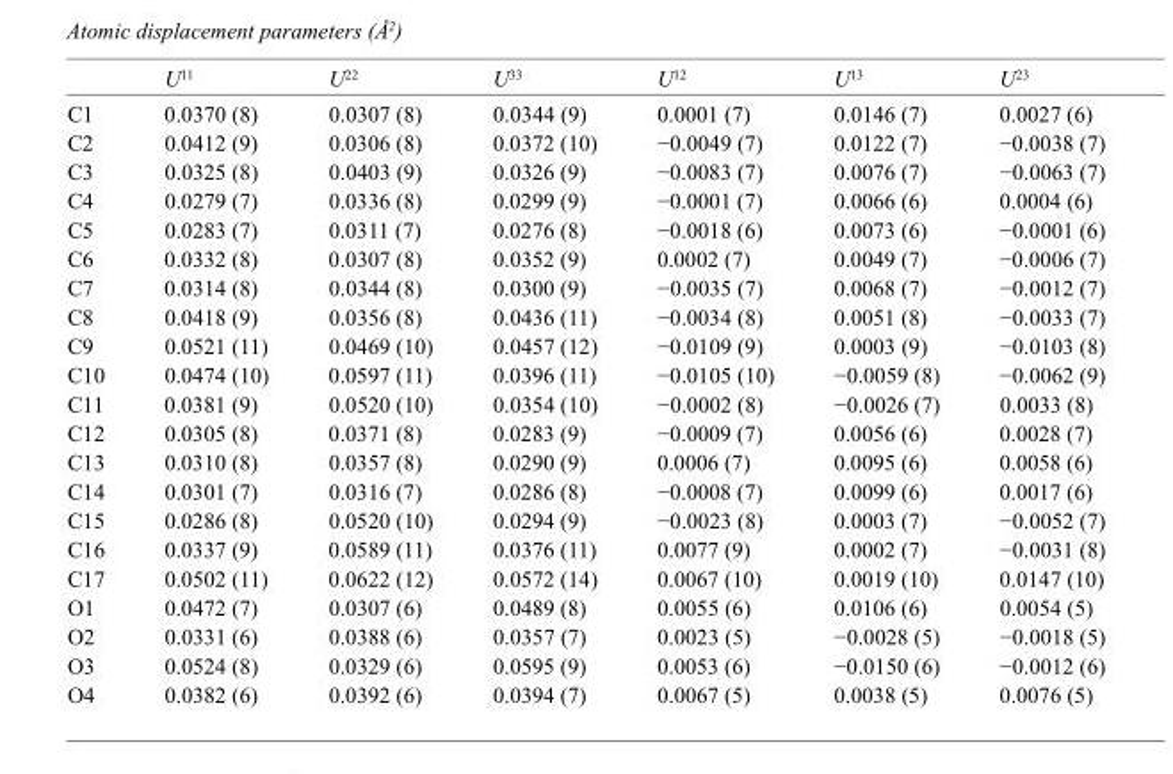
<table><thead><tr><td></td><td>U<sup>11</sup></td><td>U<sup>22</sup></td><td>U<sup>33</sup></td><td>U<sup>12</sup></td><td>U<sup>13</sup></td><td>U<sup>23</sup></td></tr></thead><tbody><tr><td>C1</td><td>0.0370 (8)</td><td>0.0307 (8)</td><td>0.0344 (9)</td><td>0.0001 (7)</td><td>0.0146 (7)</td><td>0.0027 (6)</td></tr><tr><td>C2</td><td>0.0412 (9)</td><td>0.0306 (8)</td><td>0.0372 (10)</td><td>−0.0049 (7)</td><td>0.0122 (7)</td><td>−0.0038 (7)</td></tr><tr><td>C3</td><td>0.0325 (8)</td><td>0.0403 (9)</td><td>0.0326 (9)</td><td>−0.0083 (7)</td><td>0.0076 (7)</td><td>−0.0063 (7)</td></tr><tr><td>C4</td><td>0.0279 (7)</td><td>0.0336 (8)</td><td>0.0299 (9)</td><td>−0.0001 (7)</td><td>0.0066 (6)</td><td>0.0004 (6)</td></tr><tr><td>C5</td><td>0.0283 (7)</td><td>0.0311 (7)</td><td>0.0276 (8)</td><td>−0.0018 (6)</td><td>0.0073 (6)</td><td>−0.0001 (6)</td></tr><tr><td>C6</td><td>0.0332 (8)</td><td>0.0307 (8)</td><td>0.0352 (9)</td><td>0.0002 (7)</td><td>0.0049 (7)</td><td>−0.0006 (7)</td></tr><tr><td>C7</td><td>0.0314 (8)</td><td>0.0344 (8)</td><td>0.0300 (9)</td><td>−0.0035 (7)</td><td>0.0068 (7)</td><td>−0.0012 (7)</td></tr><tr><td>C8</td><td>0.0418 (9)</td><td>0.0356 (8)</td><td>0.0436 (11)</td><td>−0.0034 (8)</td><td>0.0051 (8)</td><td>−0.0033 (7)</td></tr><tr><td>C9</td><td>0.0521 (11)</td><td>0.0469 (10)</td><td>0.0457 (12)</td><td>−0.0109 (9)</td><td>0.0003 (9)</td><td>−0.0103 (8)</td></tr><tr><td>C10</td><td>0.0474 (10)</td><td>0.0597 (11)</td><td>0.0396 (11)</td><td>−0.0105 (10)</td><td>−0.0059 (8)</td><td>−0.0062 (9)</td></tr><tr><td>C11</td><td>0.0381 (9)</td><td>0.0520 (10)</td><td>0.0354 (10)</td><td>−0.0002 (8)</td><td>−0.0026 (7)</td><td>0.0033 (8)</td></tr><tr><td>C12</td><td>0.0305 (8)</td><td>0.0371 (8)</td><td>0.0283 (9)</td><td>−0.0009 (7)</td><td>0.0056 (6)</td><td>0.0028 (7)</td></tr><tr><td>C13</td><td>0.0310 (8)</td><td>0.0357 (8)</td><td>0.0290 (9)</td><td>0.0006 (7)</td><td>0.0095 (6)</td><td>0.0058 (6)</td></tr><tr><td>C14</td><td>0.0301 (7)</td><td>0.0316 (7)</td><td>0.0286 (8)</td><td>−0.0008 (7)</td><td>0.0099 (6)</td><td>0.0017 (6)</td></tr><tr><td>C15</td><td>0.0286 (8)</td><td>0.0520 (10)</td><td>0.0294 (9)</td><td>−0.0023 (8)</td><td>0.0003 (7)</td><td>−0.0052 (7)</td></tr><tr><td>C16</td><td>0.0337 (9)</td><td>0.0589 (11)</td><td>0.0376 (11)</td><td>0.0077 (9)</td><td>0.0002 (7)</td><td>−0.0031 (8)</td></tr><tr><td>C17</td><td>0.0502 (11)</td><td>0.0622 (12)</td><td>0.0572 (14)</td><td>0.0067 (10)</td><td>0.0019 (10)</td><td>0.0147 (10)</td></tr><tr><td>O1</td><td>0.0472 (7)</td><td>0.0307 (6)</td><td>0.0489 (8)</td><td>0.0055 (6)</td><td>0.0106 (6)</td><td>0.0054 (5)</td></tr><tr><td>O2</td><td>0.0331 (6)</td><td>0.0388 (6)</td><td>0.0357 (7)</td><td>0.0023 (5)</td><td>−0.0028 (5)</td><td>−0.0018 (5)</td></tr><tr><td>O3</td><td>0.0524 (8)</td><td>0.0329 (6)</td><td>0.0595 (9)</td><td>0.0053 (6)</td><td>−0.0150 (6)</td><td>−0.0012 (6)</td></tr><tr><td>O4</td><td>0.0382 (6)</td><td>0.0392 (6)</td><td>0.0394 (7)</td><td>0.0067 (5)</td><td>0.0038 (5)</td><td>0.0076 (5)</td></tr></tbody></table>